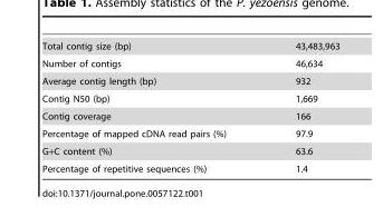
<table><tbody><tr><td>Total contig size (bp)</td><td>43,483,963</td></tr><tr><td>Number of contigs</td><td>46,634</td></tr><tr><td>Average contig length (bp)</td><td>932</td></tr><tr><td>Contig N50 (bp)</td><td>1,669</td></tr><tr><td>Contig coverage</td><td>166</td></tr><tr><td>Percentage of mapped cDNA read pairs (%)</td><td>97.9</td></tr><tr><td>G+C content (%)</td><td>63.6</td></tr><tr><td>Percentage of repetitive sequences (%)</td><td>1.4</td></tr></tbody></table>